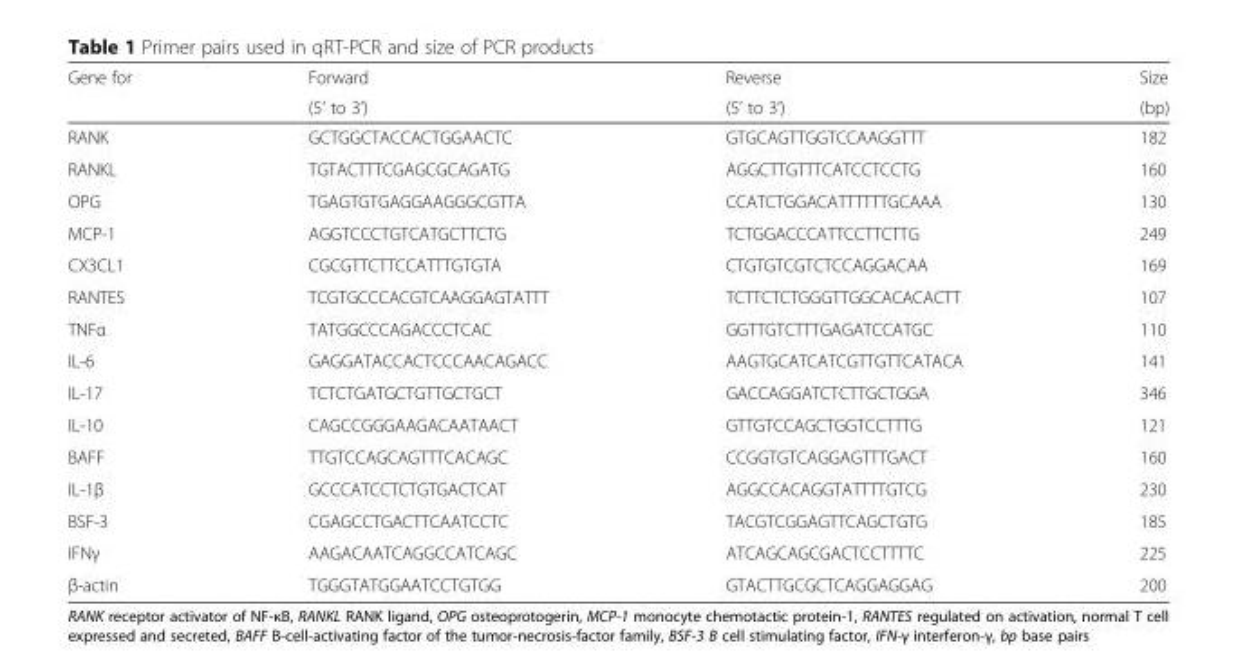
<table><thead><tr><td rowspan="2">Gene for</td><td rowspan="2">Forward (5’ to 3’)</td><td rowspan="2">Reverse (5’ to 3’)</td><td rowspan="2">Size (bp)</td></tr><tr></tr></thead><tbody><tr><td>RANK</td><td>GCTGGCTACCACTGGAACTC</td><td>GTGCAGTTGGTCCAAGGTTT</td><td>182</td></tr><tr><td>RANKL</td><td>TGTACTTTCGAGCGCAGATG</td><td>AGGCTTGTTTCATCCTCCTG</td><td>160</td></tr><tr><td>OPG</td><td>TGAGTGTGAGGAAGGGCGTTA</td><td>CCATCTGGACATTTTTTGCAAA</td><td>130</td></tr><tr><td>MCP-1</td><td>AGGTCCCTGTCATGCTTCTG</td><td>TCTGGACCCATTCCTTCTTG</td><td>249</td></tr><tr><td>CX3CL1</td><td>CGCGTTCTTCCATTTGTGTA</td><td>CTGTGTCGTCTCCAGGACAA</td><td>169</td></tr><tr><td>RANTES</td><td>TCGTGCCCACGTCAAGGAGTATTT</td><td>TCTTCTCTGGGTTGGCACACACTT</td><td>107</td></tr><tr><td>TNFα</td><td>TATGGCCCAGACCCTCAC</td><td>GGTTGTCTTTGAGATCCATGC</td><td>110</td></tr><tr><td>IL-6</td><td>GAGGATACCACTCCCAACAGACC</td><td>AAGTGCATCATCGTTGTTCATACA</td><td>141</td></tr><tr><td>IL-17</td><td>TCTCTGATGCTGTTGCTGCT</td><td>GACCAGGATCTCTTGCTGGA</td><td>346</td></tr><tr><td>IL-10</td><td>CAGCCGGGAAGACAATAACT</td><td>GTTGTCCAGCTGGTCCTTTG</td><td>121</td></tr><tr><td>BAFF</td><td>TTGTCCAGCAGTTTCACAGC</td><td>CCGGTGTCAGGAGTTTGACT</td><td>160</td></tr><tr><td>IL-1β</td><td>GCCCATCCTCTGTGACTCAT</td><td>AGGCCACAGGTATTTTGTCG</td><td>230</td></tr><tr><td>BSF-3</td><td>CGAGCCTGACTTCAATCCTC</td><td>TACGTCGGAGTTCAGCTGTG</td><td>185</td></tr><tr><td>IFNγ</td><td>AAGACAATCAGGCCATCAGC</td><td>ATCAGCAGCGACTCCTTTTC</td><td>225</td></tr><tr><td>β-actin</td><td>TGGGTATGGAATCCTGTGG</td><td>GTACTTGCGCTCAGGAGGAG</td><td>200</td></tr></tbody></table>